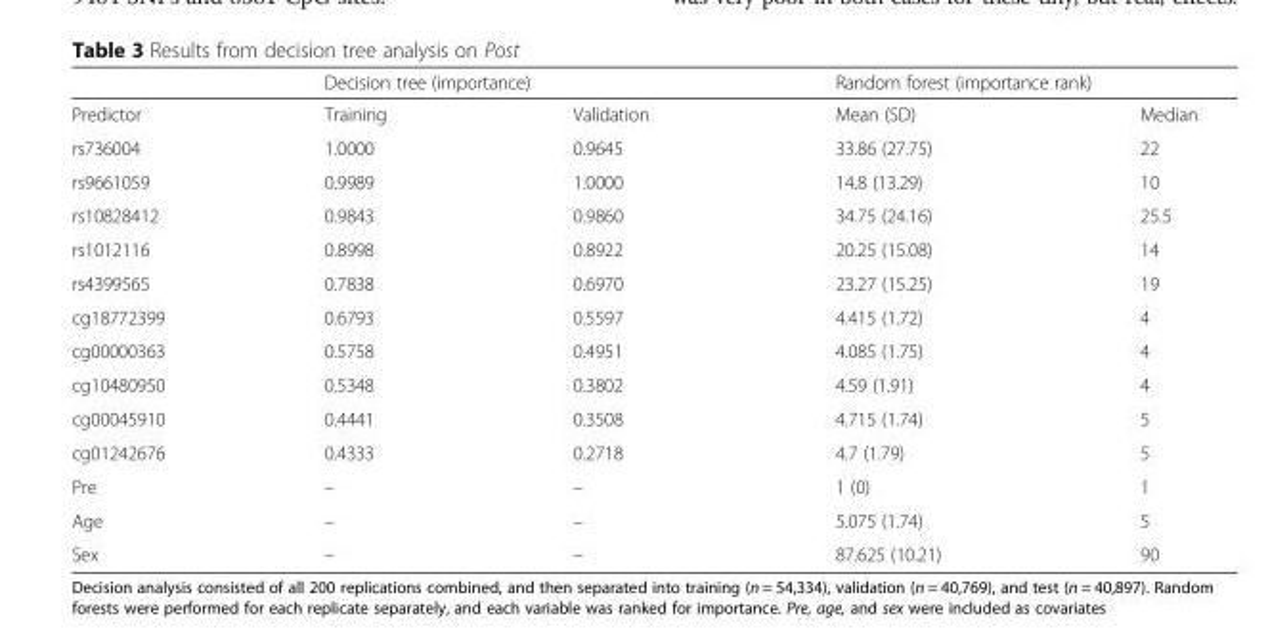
<table><thead><tr><td rowspan="2">Predictor</td><td colspan="2">Decision tree (importance)</td><td colspan="2">Random forest (importance rank)</td></tr><tr><td>Training</td><td>Validation</td><td>Mean (SD)</td><td>Median</td></tr></thead><tbody><tr><td>rs736004</td><td>1.0000</td><td>0.9645</td><td>33.86 (27.75)</td><td>22</td></tr><tr><td>rs9661059</td><td>0.9989</td><td>1.0000</td><td>14.8 (13.29)</td><td>10</td></tr><tr><td>rs10828412</td><td>0.9843</td><td>0.9860</td><td>34.75 (24.16)</td><td>25.5</td></tr><tr><td>rs1012116</td><td>0.8998</td><td>0.8922</td><td>20.25 (15.08)</td><td>14</td></tr><tr><td>rs4399565</td><td>0.7838</td><td>0.6970</td><td>23.27 (15.25)</td><td>19</td></tr><tr><td>cg18772399</td><td>0.6793</td><td>0.5597</td><td>4.415 (1.72)</td><td>4</td></tr><tr><td>cg00000363</td><td>0.5758</td><td>0.4951</td><td>4.085 (1.75)</td><td>4</td></tr><tr><td>cg10480950</td><td>0.5348</td><td>0.3802</td><td>4.59 (1.91)</td><td>4</td></tr><tr><td>cg00045910</td><td>0.4441</td><td>0.3508</td><td>4.715 (1.74)</td><td>5</td></tr><tr><td>cg01242676</td><td>0.4333</td><td>0.2718</td><td>4.7 (1.79)</td><td>5</td></tr><tr><td>Pre</td><td>–</td><td>–</td><td>1 (0)</td><td>1</td></tr><tr><td>Age</td><td>–</td><td>–</td><td>5.075 (1.74)</td><td>5</td></tr><tr><td>Sex</td><td>–</td><td>–</td><td>87.625 (10.21)</td><td>90</td></tr></tbody></table>